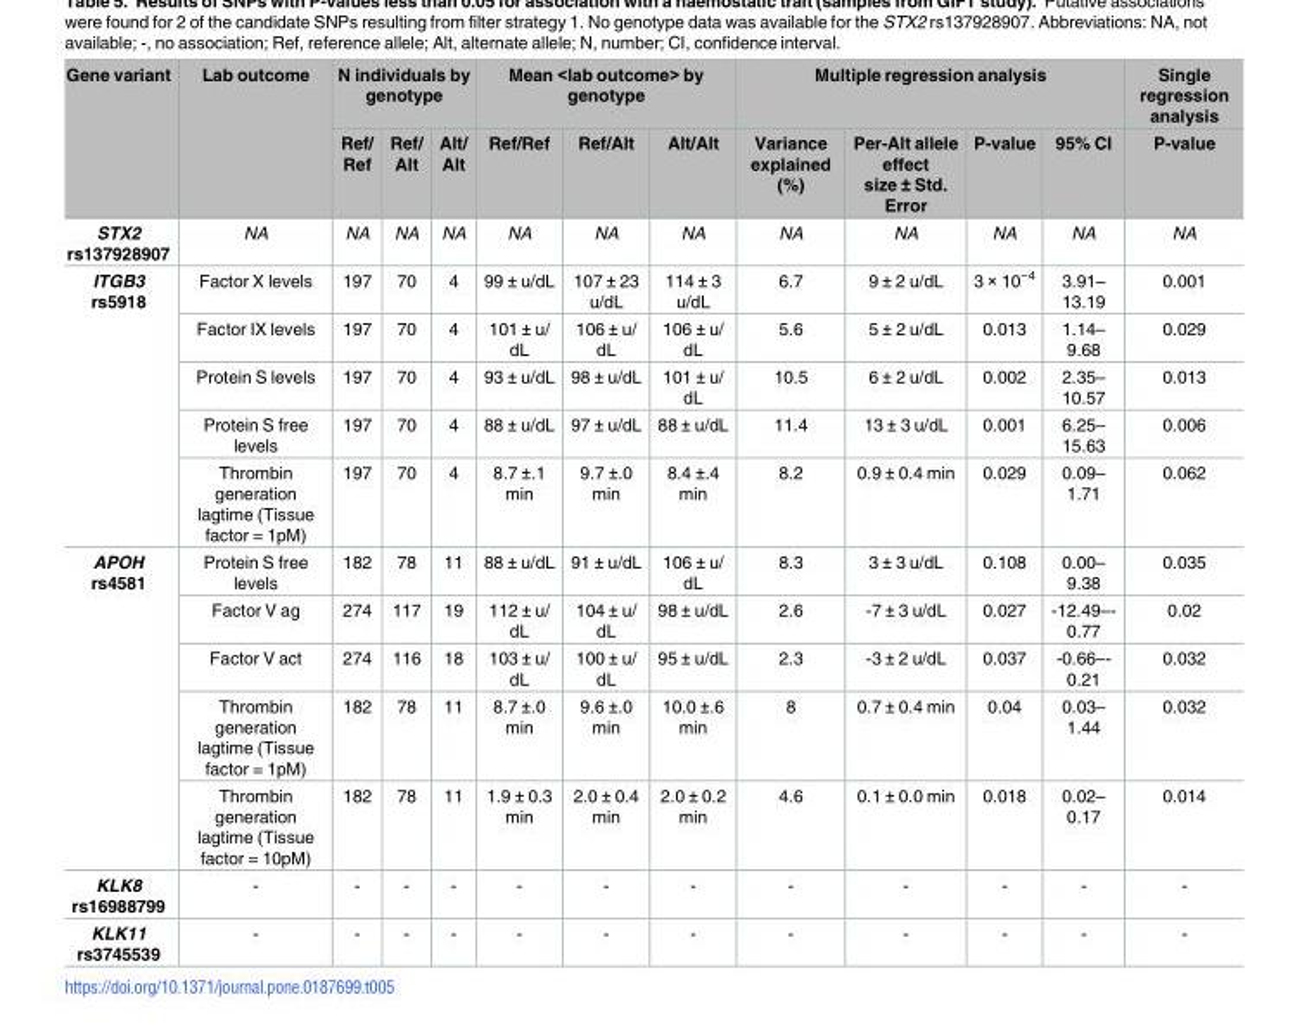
<table><thead><tr><td rowspan="2">Gene variant</td><td rowspan="2">Lab outcome</td><td colspan="3">N individuals by genotype</td><td colspan="3">Mean &lt;lab outcome&gt; by genotype</td><td colspan="4">Multiple regression analysis</td><td rowspan="2">Single regression analysis P-value</td></tr><tr><td>Ref/ Ref</td><td>Ref/ Alt</td><td>Alt/ Alt</td><td>Ref/Ref</td><td>Ref/Alt</td><td>Alt/Alt</td><td>Variance explained (%)</td><td>Per-Alt allele effect size ± Std. Error</td><td>P-value</td><td>95% CI</td></tr></thead><tbody><tr><td>STX2 rs137928907</td><td>NA</td><td>NA</td><td>NA</td><td>NA</td><td>NA</td><td>NA</td><td>NA</td><td>NA</td><td>NA</td><td>NA</td><td>NA</td><td>NA</td></tr><tr><td rowspan="5">ITGB3 rs5918</td><td>Factor X levels</td><td>197</td><td>70</td><td>4</td><td>99 ± u/dL</td><td>107 ± 23 u/dL</td><td>114 ± 3 u/dL</td><td>6.7</td><td>9 ± 2 u/dL</td><td>3 × 10<sup>−4</sup></td><td>3.91– 13.19</td><td>0.001</td></tr><tr><td>Factor IX levels</td><td>197</td><td>70</td><td>4</td><td>101 ± u/ dL</td><td>106 ± u/ dL</td><td>106 ± u/ dL</td><td>5.6</td><td>5 ± 2 u/dL</td><td>0.013</td><td>1.14– 9.68</td><td>0.029</td></tr><tr><td>Protein S levels</td><td>197</td><td>70</td><td>4</td><td>93 ± u/dL</td><td>98 ± u/dL</td><td>101 ± u/ dL</td><td>10.5</td><td>6 ± 2 u/dL</td><td>0.002</td><td>2.35– 10.57</td><td>0.013</td></tr><tr><td>Protein S free levels</td><td>197</td><td>70</td><td>4</td><td>88 ± u/dL</td><td>97 ± u/dL</td><td>88 ± u/dL</td><td>11.4</td><td>13 ± 3 u/dL</td><td>0.001</td><td>6.25– 15.63</td><td>0.006</td></tr><tr><td>Thrombin generation lagtime (Tissue factor = 1pM)</td><td>197</td><td>70</td><td>4</td><td>8.7 ±.1 min</td><td>9.7 ±.0 min</td><td>8.4 ±.4 min</td><td>8.2</td><td>0.9 ± 0.4 min</td><td>0.029</td><td>0.09– 1.71</td><td>0.062</td></tr><tr><td rowspan="5">APOH rs4581</td><td>Protein S free levels</td><td>182</td><td>78</td><td>11</td><td>88 ± u/dL</td><td>91 ± u/dL</td><td>106 ± u/ dL</td><td>8.3</td><td>3 ± 3 u/dL</td><td>0.108</td><td>0.00– 9.38</td><td>0.035</td></tr><tr><td>Factor V ag</td><td>274</td><td>117</td><td>19</td><td>112 ± u/ dL</td><td>104 ± u/ dL</td><td>98 ± u/dL</td><td>2.6</td><td>-7 ± 3 u/dL</td><td>0.027</td><td>-12.49–- 0.77</td><td>0.02</td></tr><tr><td>Factor V act</td><td>274</td><td>116</td><td>18</td><td>103 ± u/ dL</td><td>100 ± u/ dL</td><td>95 ± u/dL</td><td>2.3</td><td>-3 ± 2 u/dL</td><td>0.037</td><td>-0.66–- 0.21</td><td>0.032</td></tr><tr><td>Thrombin generation lagtime (Tissue factor = 1pM)</td><td>182</td><td>78</td><td>11</td><td>8.7 ±.0 min</td><td>9.6 ±.0 min</td><td>10.0 ±.6 min</td><td>8</td><td>0.7 ± 0.4 min</td><td>0.04</td><td>0.03– 1.44</td><td>0.032</td></tr><tr><td>Thrombin generation lagtime (Tissue factor = 10pM)</td><td>182</td><td>78</td><td>11</td><td>1.9 ± 0.3 min</td><td>2.0 ± 0.4 min</td><td>2.0 ± 0.2 min</td><td>4.6</td><td>0.1 ± 0.0 min</td><td>0.018</td><td>0.02– 0.17</td><td>0.014</td></tr><tr><td>KLK8 rs16988799</td><td>-</td><td>-</td><td>-</td><td>-</td><td>-</td><td>-</td><td>-</td><td>-</td><td>-</td><td>-</td><td>-</td><td>-</td></tr><tr><td>KLK11 rs3745539</td><td>-</td><td>-</td><td>-</td><td>-</td><td>-</td><td>-</td><td>-</td><td>-</td><td>-</td><td>-</td><td>-</td><td>-</td></tr></tbody></table>